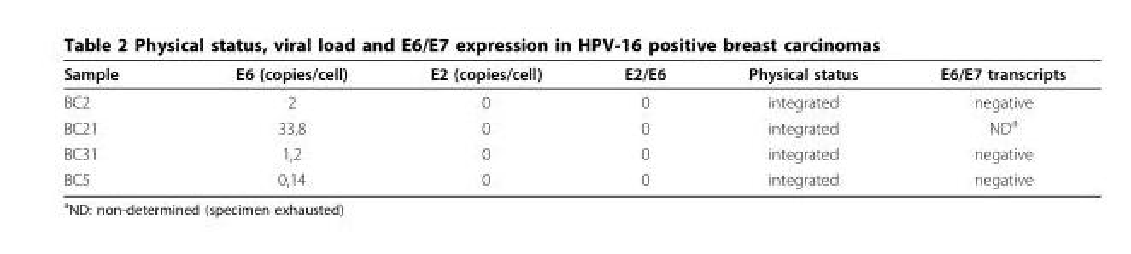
<table><thead><tr><td>Sample</td><td>E6 (copies/cell)</td><td>E2 (copies/cell)</td><td>E2/E6</td><td>Physical status</td><td>E6/E7 transcripts</td></tr></thead><tbody><tr><td>BC2</td><td>2</td><td>0</td><td>0</td><td>integrated</td><td>negative</td></tr><tr><td>BC21</td><td>33,8</td><td>0</td><td>0</td><td>integrated</td><td>ND<sup>a</sup></td></tr><tr><td>BC31</td><td>1,2</td><td>0</td><td>0</td><td>integrated</td><td>negative</td></tr><tr><td>BC5</td><td>0,14</td><td>0</td><td>0</td><td>integrated</td><td>negative</td></tr></tbody></table>